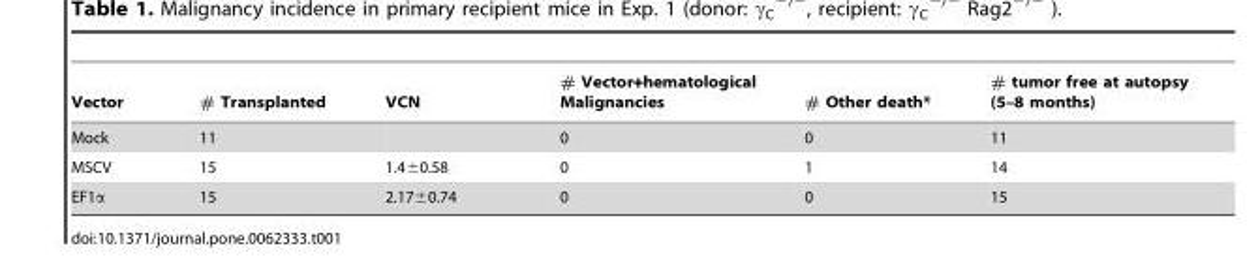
<table><thead><tr><td>Vector</td><td># Transplanted</td><td>VCN</td><td># Vector+hematological Malignancies</td><td># Other death*</td><td># tumor free at autopsy (5–8 months)</td></tr></thead><tbody><tr><td>Mock</td><td>11</td><td></td><td>0</td><td>0</td><td>11</td></tr><tr><td>MSCV</td><td>15</td><td>1.4±0.58</td><td>0</td><td>1</td><td>14</td></tr><tr><td>EF1α</td><td>15</td><td>2.17±0.74</td><td>0</td><td>0</td><td>15</td></tr></tbody></table>